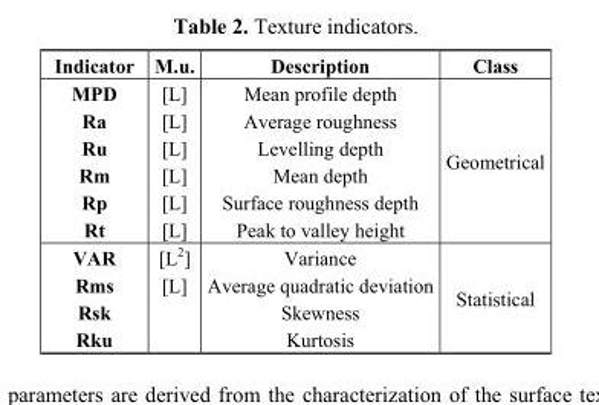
<table><thead><tr><td>Indicator</td><td>M.u.</td><td>Description</td><td>Class</td></tr></thead><tbody><tr><td>MPD</td><td>[L]</td><td>Mean profile depth</td><td rowspan="6">Geometrical</td></tr><tr><td>Ra</td><td>[L]</td><td>Average roughness</td></tr><tr><td>Ru</td><td>[L]</td><td>Levelling depth</td></tr><tr><td>Rm</td><td>[L]</td><td>Mean depth</td></tr><tr><td>Rp</td><td>[L]</td><td>Surface roughness depth</td></tr><tr><td>Rt</td><td>[L]</td><td>Peak to valley height</td></tr><tr><td>VAR</td><td>[L<sup>2</sup>]</td><td>Variance</td><td rowspan="4">Statistical</td></tr><tr><td>Rms</td><td>[L]</td><td>Average quadratic deviation</td></tr><tr><td>Rsk</td><td></td><td>Skewness</td></tr><tr><td>Rku</td><td></td><td>Kurtosis</td></tr></tbody></table>